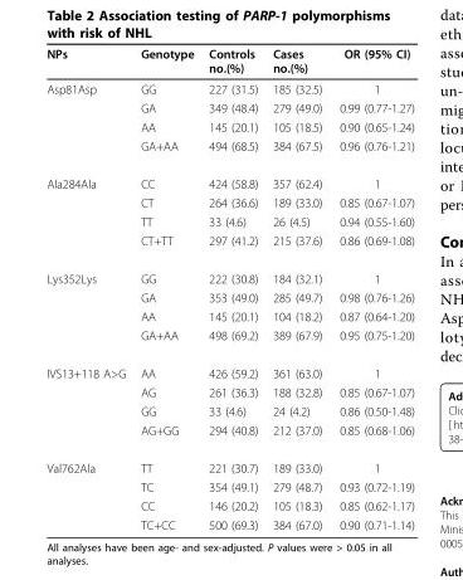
<table><thead><tr><td>NPs</td><td>Genotype</td><td>Controls no.(%)</td><td>Cases no.(%)</td><td>OR (95% CI)</td></tr></thead><tbody><tr><td rowspan="4">Asp81Asp</td><td>GG</td><td>227 (31.5)</td><td>185 (32.5)</td><td>1</td></tr><tr><td>GA</td><td>349 (48.4)</td><td>279 (49.0)</td><td>0.99 (0.77-1.27)</td></tr><tr><td>AA</td><td>145 (20.1)</td><td>105 (18.5)</td><td>0.90 (0.65-1.24)</td></tr><tr><td>GA+AA</td><td>494 (68.5)</td><td>384 (67.5)</td><td>0.96 (0.76-1.21)</td></tr><tr><td rowspan="4">Ala284Ala</td><td>CC</td><td>424 (58.8)</td><td>357 (62.4)</td><td>1</td></tr><tr><td>CT</td><td>264 (36.6)</td><td>189 (33.0)</td><td>0.85 (0.67-1.07)</td></tr><tr><td>TT</td><td>33 (4.6)</td><td>26 (4.5)</td><td>0.94 (0.55-1.60)</td></tr><tr><td>CT+TT</td><td>297 (41.2)</td><td>215 (37.6)</td><td>0.86 (0.69-1.08)</td></tr><tr><td rowspan="4">Lys352Lys</td><td>GG</td><td>222 (30.8)</td><td>184 (32.1)</td><td>1</td></tr><tr><td>GA</td><td>353 (49.0)</td><td>285 (49.7)</td><td>0.98 (0.76-1.26)</td></tr><tr><td>AA</td><td>145 (20.1)</td><td>104 (18.2)</td><td>0.87 (0.64-1.20)</td></tr><tr><td>GA+AA</td><td>498 (69.2)</td><td>389 (67.9)</td><td>0.95 (0.75-1.20)</td></tr><tr><td rowspan="4">IVS13+118 A&gt;G</td><td>AA</td><td>426 (59.2)</td><td>361 (63.0)</td><td>1</td></tr><tr><td>AG</td><td>261 (36.3)</td><td>188 (32.8)</td><td>0.85 (0.67-1.07)</td></tr><tr><td>GG</td><td>33 (4.6)</td><td>24 (4.2)</td><td>0.86 (0.50-1.48)</td></tr><tr><td>AG+GG</td><td>294 (40.8)</td><td>212 (37.0)</td><td>0.85 (0.68-1.06)</td></tr><tr><td rowspan="4">Val762Ala</td><td>TT</td><td>221 (30.7)</td><td>189 (33.0)</td><td>1</td></tr><tr><td>TC</td><td>354 (49.1)</td><td>279 (48.7)</td><td>0.93 (0.72-1.19)</td></tr><tr><td>CC</td><td>146 (20.2)</td><td>105 (18.3)</td><td>0.85 (0.62-1.17)</td></tr><tr><td>TC+CC</td><td>500 (69.3)</td><td>384 (67.0)</td><td>0.90 (0.71-1.14)</td></tr></tbody></table>